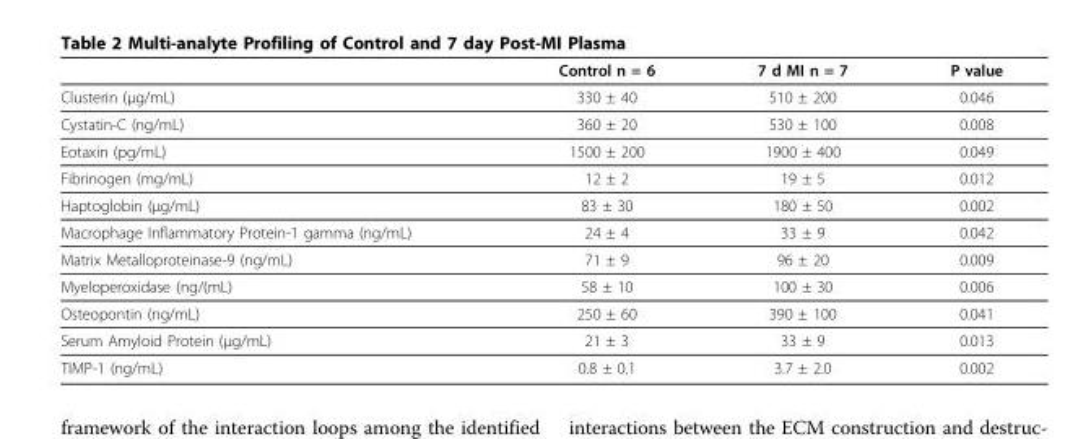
<table><thead><tr><td></td><td>Control n = 6</td><td>7 d MI n = 7</td><td>P value</td></tr></thead><tbody><tr><td>Clusterin (μg/mL)</td><td>330 ± 40</td><td>510 ± 200</td><td>0.046</td></tr><tr><td>Cystatin-C (ng/mL)</td><td>360 ± 20</td><td>530 ± 100</td><td>0.008</td></tr><tr><td>Eotaxin (pg/mL)</td><td>1500 ± 200</td><td>1900 ± 400</td><td>0.049</td></tr><tr><td>Fibrinogen (mg/mL)</td><td>12 ± 2</td><td>19 ± 5</td><td>0.012</td></tr><tr><td>Haptoglobin (μg/mL)</td><td>83 ± 30</td><td>180 ± 50</td><td>0.002</td></tr><tr><td>Macrophage Inflammatory Protein-1 gamma (ng/mL)</td><td>24 ± 4</td><td>33 ± 9</td><td>0.042</td></tr><tr><td>Matrix Metalloproteinase-9 (ng/mL)</td><td>71 ± 9</td><td>96 ± 20</td><td>0.009</td></tr><tr><td>Myeloperoxidase (ng/(mL)</td><td>58 ± 10</td><td>100 ± 30</td><td>0.006</td></tr><tr><td>Osteopontin (ng/mL)</td><td>250 ± 60</td><td>390 ± 100</td><td>0.041</td></tr><tr><td>Serum Amyloid Protein (μg/mL)</td><td>21 ± 3</td><td>33 ± 9</td><td>0.013</td></tr><tr><td>TIMP-1 (ng/mL)</td><td>0.8 ± 0.1</td><td>3.7 ± 2.0</td><td>0.002</td></tr></tbody></table>